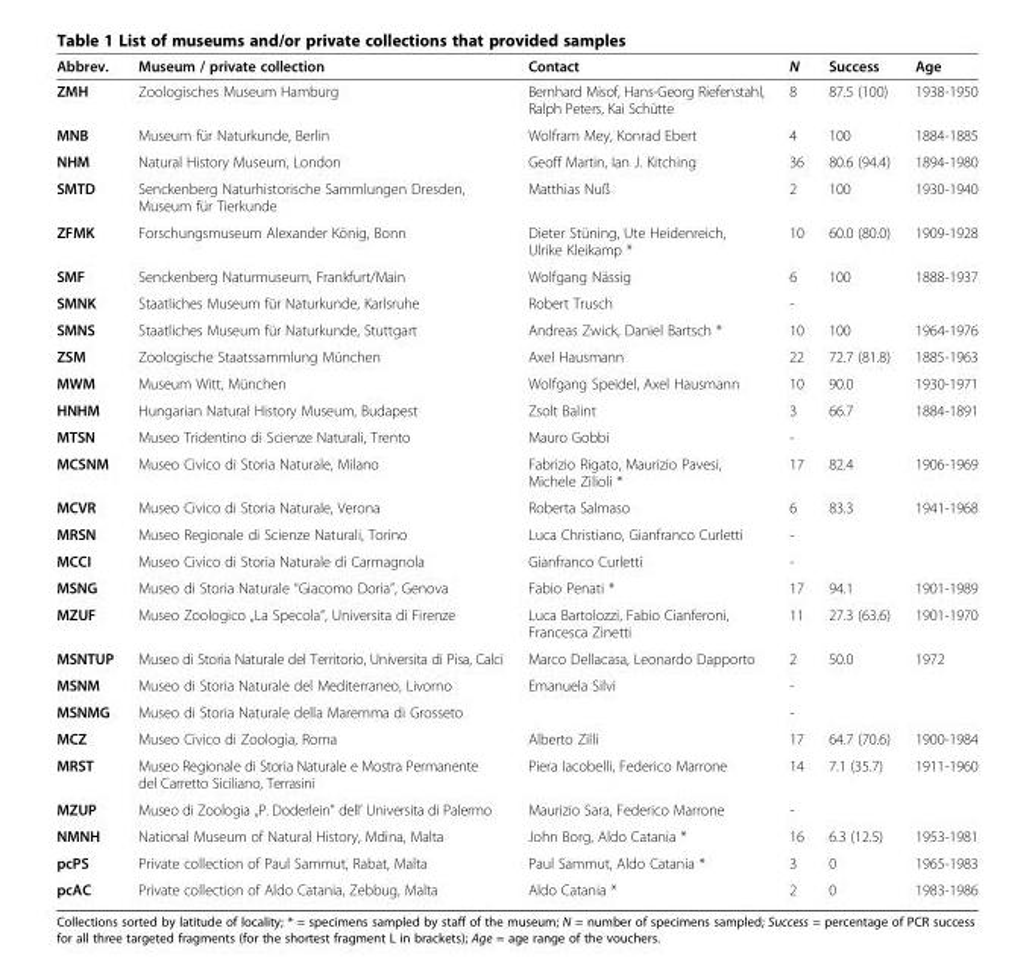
<table><thead><tr><td>Abbrev.</td><td>Museum / private collection</td><td>Contact</td><td>N</td><td>Success</td><td>Age</td></tr></thead><tbody><tr><td>ZMH</td><td>Zoologisches Museum Hamburg</td><td>Bernhard Misof, Hans-Georg Riefenstahl, Ralph Peters, Kai Schütte</td><td>8</td><td>87.5 (100)</td><td>1938-1950</td></tr><tr><td>MNB</td><td>Museum für Naturkunde, Berlin</td><td>Wolfram Mey, Konrad Ebert</td><td>4</td><td>100</td><td>1884-1885</td></tr><tr><td>NHM</td><td>Natural History Museum, London</td><td>Geoff Martin, Ian J. Kitching</td><td>36</td><td>80.6 (94.4)</td><td>1894-1980</td></tr><tr><td>SMTD</td><td>Senckenberg Naturhistorische Sammlungen Dresden, Museum für Tierkunde</td><td>Matthias Nuß</td><td>2</td><td>100</td><td>1930-1940</td></tr><tr><td>ZFMK</td><td>Forschungsmuseum Alexander König, Bonn</td><td>Dieter Stüning, Ute Heidenreich, Ulrike Kleikamp *</td><td>10</td><td>60.0 (80.0)</td><td>1909-1928</td></tr><tr><td>SMF</td><td>Senckenberg Naturmuseum, Frankfurt/Main</td><td>Wolfgang Nässig</td><td>6</td><td>100</td><td>1888-1937</td></tr><tr><td>SMNK</td><td>Staatliches Museum für Naturkunde, Karlsruhe</td><td>Robert Trusch</td><td>-</td><td></td><td></td></tr><tr><td>SMNS</td><td>Staatliches Museum für Naturkunde, Stuttgart</td><td>Andreas Zwick, Daniel Bartsch *</td><td>10</td><td>100</td><td>1964-1976</td></tr><tr><td>ZSM</td><td>Zoologische Staatssammlung München</td><td>Axel Hausmann</td><td>22</td><td>72.7 (81.8)</td><td>1885-1963</td></tr><tr><td>MWM</td><td>Museum Witt, München</td><td>Wolfgang Speidel, Axel Hausmann</td><td>10</td><td>90.0</td><td>1930-1971</td></tr><tr><td>HNHM</td><td>Hungarian Natural History Museum, Budapest</td><td>Zsolt Balint</td><td>3</td><td>66.7</td><td>1884-1891</td></tr><tr><td>MTSN</td><td>Museo Tridentino di Scienze Naturali, Trento</td><td>Mauro Gobbi</td><td>-</td><td></td><td></td></tr><tr><td>MCSNM</td><td>Museo Civico di Storia Naturale, Milano</td><td>Fabrizio Rigato, Maurizio Pavesi, Michele Zilioli *</td><td>17</td><td>82.4</td><td>1906-1969</td></tr><tr><td>MCVR</td><td>Museo Civico di Storia Naturale, Verona</td><td>Roberta Salmaso</td><td>6</td><td>83.3</td><td>1941-1968</td></tr><tr><td>MRSN</td><td>Museo Regionale di Scienze Naturali, Torino</td><td>Luca Christiano, Gianfranco Curletti</td><td>-</td><td></td><td></td></tr><tr><td>MCCI</td><td>Museo Civico di Storia Naturale di Carmagnola</td><td>Gianfranco Curletti</td><td>-</td><td></td><td></td></tr><tr><td>MSNG</td><td>Museo di Storia Naturale “Giacomo Doria”, Genova</td><td>Fabio Penati *</td><td>17</td><td>94.1</td><td>1901-1989</td></tr><tr><td>MZUF</td><td>Museo Zoologico „La Specola“, Universita di Firenze</td><td>Luca Bartolozzi, Fabio Cianferoni, Francesca Zinetti</td><td>11</td><td>27.3 (63.6)</td><td>1901-1970</td></tr><tr><td>MSNTUP</td><td>Museo di Storia Naturale del Territorio, Universita di Pisa, Calci</td><td>Marco Dellacasa, Leonardo Dapporto</td><td>2</td><td>50.0</td><td>1972</td></tr><tr><td>MSNM</td><td>Museo di Storia Naturale del Mediterraneo, Livorno</td><td>Emanuela Silvi</td><td>-</td><td></td><td></td></tr><tr><td>MSNMG</td><td>Museo di Storia Naturale della Maremma di Grosseto</td><td></td><td>-</td><td></td><td></td></tr><tr><td>MCZ</td><td>Museo Civico di Zoologia, Roma</td><td>Alberto Zilli</td><td>17</td><td>64.7 (70.6)</td><td>1900-1984</td></tr><tr><td>MRST</td><td>Museo Regionale di Storia Naturale e Mostra Permanente del Carretto Siciliano, Terrasini</td><td>Piera Iacobelli, Federico Marrone</td><td>14</td><td>7.1 (35.7)</td><td>1911-1960</td></tr><tr><td>MZUP</td><td>Museo di Zoologia „P. Doderlein” dell’ Universita di Palermo</td><td>Maurizio Sara, Federico Marrone</td><td>-</td><td></td><td></td></tr><tr><td>NMNH</td><td>National Museum of Natural History, Mdina, Malta</td><td>John Borg, Aldo Catania *</td><td>16</td><td>6.3 (12.5)</td><td>1953-1981</td></tr><tr><td>pcPS</td><td>Private collection of Paul Sammut, Rabat, Malta</td><td>Paul Sammut, Aldo Catania *</td><td>3</td><td>0</td><td>1965-1983</td></tr><tr><td>pcAC</td><td>Private collection of Aldo Catania, Zebbug, Malta</td><td>Aldo Catania *</td><td>2</td><td>0</td><td>1983-1986</td></tr></tbody></table>